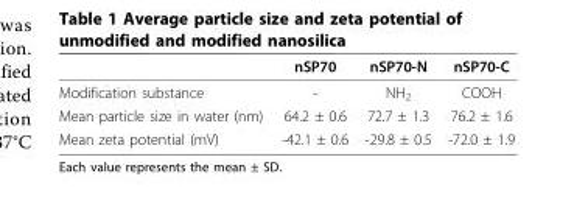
<table><thead><tr><td></td><td>nSP70</td><td>nSP70-N</td><td>nSP70-C</td></tr></thead><tbody><tr><td>Modification substance</td><td>-</td><td>NH<sub>2</sub></td><td>COOH</td></tr><tr><td>Mean particle size in water (nm)</td><td>64.2 ± 0.6</td><td>72.7 ± 1.3</td><td>76.2 ± 1.6</td></tr><tr><td>Mean zeta potential (mV)</td><td>-42.1 ± 0.6</td><td>-29.8 ± 0.5</td><td>-72.0 ± 1.9</td></tr></tbody></table>